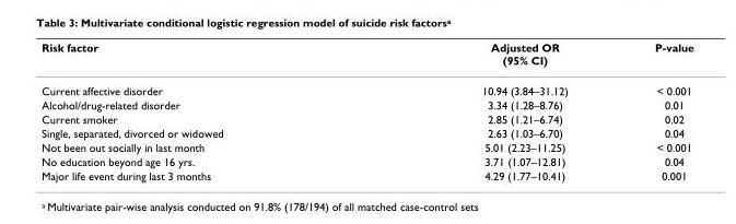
<table><thead><tr><td>Risk factor</td><td>Adjusted OR (95% CI)</td><td>P-value</td></tr></thead><tbody><tr><td>Current affective disorder</td><td>10.94 (3.84–31.12)</td><td>&lt; 0.001</td></tr><tr><td>Alcohol/drug-related disorder</td><td>3.34 (1.28–8.76)</td><td>0.01</td></tr><tr><td>Current smoker</td><td>2.85 (1.21–6.74)</td><td>0.02</td></tr><tr><td>Single, separated, divorced or widowed</td><td>2.63 (1.03–6.70)</td><td>0.04</td></tr><tr><td>Not been out socially in last month</td><td>5.01 (2.23–11.25)</td><td>&lt; 0.001</td></tr><tr><td>No education beyond age 16 yrs.</td><td>3.71 (1.07–12.81)</td><td>0.04</td></tr><tr><td>Major life event during last 3 months</td><td>4.29 (1.77–10.41)</td><td>0.001</td></tr></tbody></table>